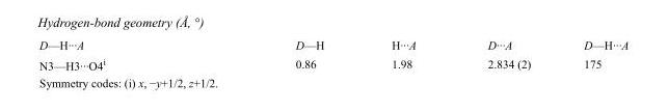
<table><tbody><tr><td>D—H···A</td><td>D—H</td><td>H···A</td><td>D···A</td><td>D—H···A</td></tr><tr><td>N3—H3···O4<sup>i</sup></td><td>0.86</td><td>1.98</td><td>2.834 (2)</td><td>175</td></tr></tbody></table>